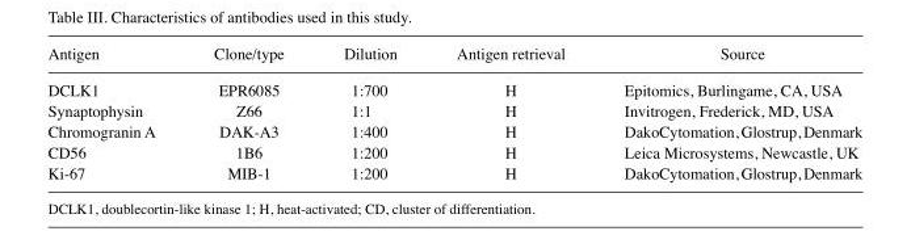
<table><thead><tr><td>Antigen</td><td>Clone/type</td><td>Dilution</td><td>Antigen retrieval</td><td>Source</td></tr></thead><tbody><tr><td>DCLK1</td><td>EPR6085</td><td>1:700</td><td>H</td><td>Epitomics, Burlingame, CA, USA</td></tr><tr><td>Synaptophysin</td><td>Z66</td><td>1:1</td><td>H</td><td>Invitrogen, Frederick, MD, USA</td></tr><tr><td>Chromogranin A</td><td>DAK-A3</td><td>1:400</td><td>H</td><td>DakoCytomation, Glostrup, Denmark</td></tr><tr><td>CD56</td><td>1B6</td><td>1:200</td><td>H</td><td>Leica Microsystems, Newcastle, UK</td></tr><tr><td>Ki‑67</td><td>MIB‑1</td><td>1:200</td><td>H</td><td>DakoCytomation, Glostrup, Denmark</td></tr></tbody></table>